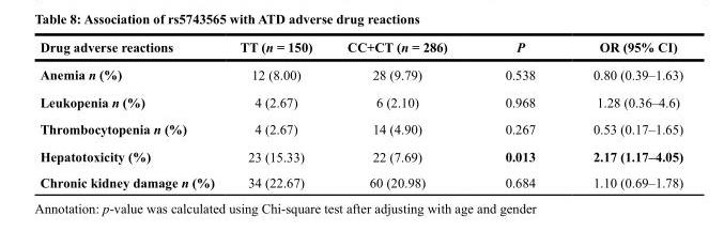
<table><thead><tr><td>Drug adverse reactions</td><td>TT (n = 150)</td><td>CC+CT (n = 286)</td><td>P</td><td>OR (95% CI)</td></tr></thead><tbody><tr><td>Anemia n (%)</td><td>12 (8.00)</td><td>28 (9.79)</td><td>0.538</td><td>0.80 (0.39–1.63)</td></tr><tr><td>Leukopenia n (%)</td><td>4 (2.67)</td><td>6 (2.10)</td><td>0.968</td><td>1.28 (0.36–4.6)</td></tr><tr><td>Thrombocytopenia n (%)</td><td>4 (2.67)</td><td>14 (4.90)</td><td>0.267</td><td>0.53 (0.17–1.65)</td></tr><tr><td>Hepatotoxicity (%)</td><td>23 (15.33)</td><td>22 (7.69)</td><td>0.013</td><td>2.17 (1.17–4.05)</td></tr><tr><td>Chronic kidney damage n (%)</td><td>34 (22.67)</td><td>60 (20.98)</td><td>0.684</td><td>1.10 (0.69–1.78)</td></tr></tbody></table>